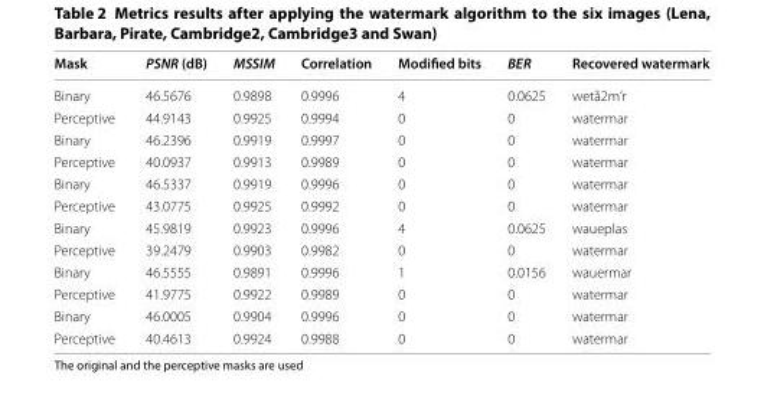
<table><thead><tr><td>Mask</td><td>PSNR (dB)</td><td>MSSIM</td><td>Correlation</td><td>Modified bits</td><td>BER</td><td>Recovered watermark</td></tr></thead><tbody><tr><td>Binary</td><td>46.5676</td><td>0.9898</td><td>0.9996</td><td>4</td><td>0.0625</td><td>wetå2m‘r</td></tr><tr><td>Perceptive</td><td>44.9143</td><td>0.9925</td><td>0.9994</td><td>0</td><td>0</td><td>watermar</td></tr><tr><td>Binary</td><td>46.2396</td><td>0.9919</td><td>0.9997</td><td>0</td><td>0</td><td>watermar</td></tr><tr><td>Perceptive</td><td>40.0937</td><td>0.9913</td><td>0.9989</td><td>0</td><td>0</td><td>watermar</td></tr><tr><td>Binary</td><td>46.5337</td><td>0.9919</td><td>0.9996</td><td>0</td><td>0</td><td>watermar</td></tr><tr><td>Perceptive</td><td>43.0775</td><td>0.9925</td><td>0.9992</td><td>0</td><td>0</td><td>watermar</td></tr><tr><td>Binary</td><td>45.9819</td><td>0.9923</td><td>0.9996</td><td>4</td><td>0.0625</td><td>waueplas</td></tr><tr><td>Perceptive</td><td>39.2479</td><td>0.9903</td><td>0.9982</td><td>0</td><td>0</td><td>watermar</td></tr><tr><td>Binary</td><td>46.5555</td><td>0.9891</td><td>0.9996</td><td>1</td><td>0.0156</td><td>wauermar</td></tr><tr><td>Perceptive</td><td>41.9775</td><td>0.9922</td><td>0.9989</td><td>0</td><td>0</td><td>watermar</td></tr><tr><td>Binary</td><td>46.0005</td><td>0.9904</td><td>0.9996</td><td>0</td><td>0</td><td>watermar</td></tr><tr><td>Perceptive</td><td>40.4613</td><td>0.9924</td><td>0.9988</td><td>0</td><td>0</td><td>watermar</td></tr></tbody></table>